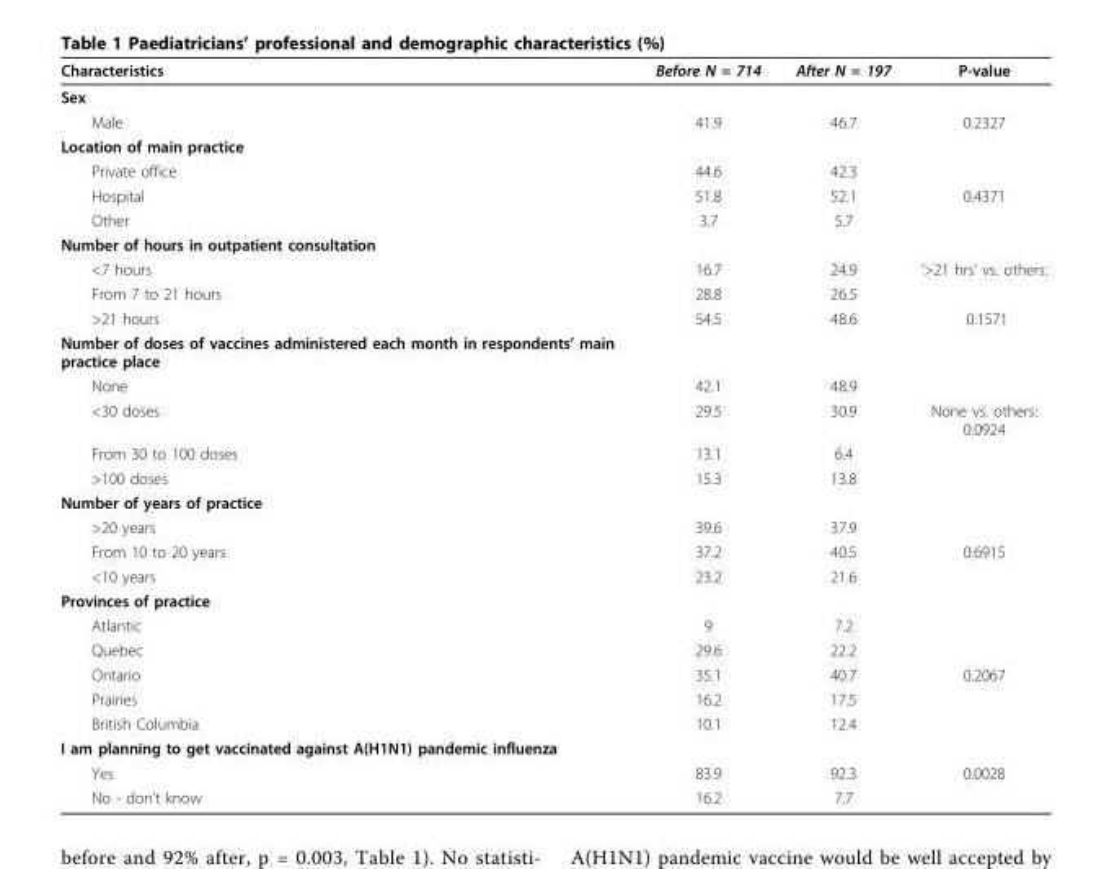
<table><thead><tr><td>Characteristics</td><td>Before N = 714</td><td>After N = 197</td><td>P-value</td></tr></thead><tbody><tr><td colspan="4">Sex</td></tr><tr><td>Male</td><td>41.9</td><td>46.7</td><td>0.2327</td></tr><tr><td colspan="4">Location of main practice</td></tr><tr><td>Private office</td><td>44.6</td><td>42.3</td><td></td></tr><tr><td>Hospital</td><td>51.8</td><td>52.1</td><td>0.4371</td></tr><tr><td>Other</td><td>3.7</td><td>5.7</td><td></td></tr><tr><td colspan="4">Number of hours in outpatient consultation</td></tr><tr><td>&lt;7 hours</td><td>16.7</td><td>24.9</td><td>’&gt;21 hrs’ vs. others:</td></tr><tr><td>From 7 to 21 hours</td><td>28.8</td><td>26.5</td><td></td></tr><tr><td>&gt;21 hours</td><td>54.5</td><td>48.6</td><td>0.1571</td></tr><tr><td colspan="4">Number of doses of vaccines administered each month in respondents’ main practice place</td></tr><tr><td>None</td><td>42.1</td><td>48.9</td><td></td></tr><tr><td>&lt;30 doses</td><td>29.5</td><td>30.9</td><td>None vs. others: 0.0924</td></tr><tr><td>From 30 to 100 doses</td><td>13.1</td><td>6.4</td><td></td></tr><tr><td>&gt;100 doses</td><td>15.3</td><td>13.8</td><td></td></tr><tr><td colspan="4">Number of years of practice</td></tr><tr><td>&gt;20 years</td><td>39.6</td><td>37.9</td><td></td></tr><tr><td>From 10 to 20 years</td><td>37.2</td><td>40.5</td><td>0.6915</td></tr><tr><td>&lt;10 years</td><td>23.2</td><td>21.6</td><td></td></tr><tr><td colspan="4">Provinces of practice</td></tr><tr><td>Atlantic</td><td>9</td><td>7.2</td><td></td></tr><tr><td>Quebec</td><td>29.6</td><td>22.2</td><td></td></tr><tr><td>Ontario</td><td>35.1</td><td>40.7</td><td>0.2067</td></tr><tr><td>Prairies</td><td>16.2</td><td>17.5</td><td></td></tr><tr><td>British Columbia</td><td>10.1</td><td>12.4</td><td></td></tr><tr><td colspan="4">I am planning to get vaccinated against A(H1N1) pandemic influenza</td></tr><tr><td>Yes</td><td>83.9</td><td>92.3</td><td>0.0028</td></tr><tr><td>No - don’t know</td><td>16.2</td><td>7.7</td><td></td></tr></tbody></table>